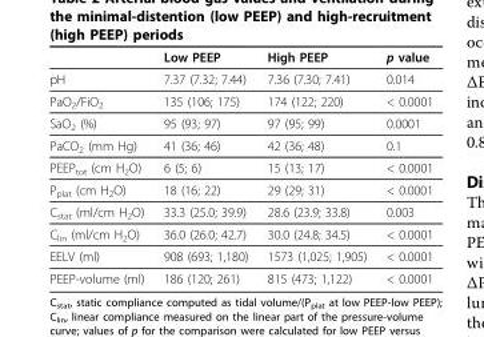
<table><thead><tr><td></td><td>Low PEEP</td><td>High PEEP</td><td>p value</td></tr></thead><tbody><tr><td>pH</td><td>7.37 (7.32; 7.44)</td><td>7.36 (7.30; 7.41)</td><td>0.014</td></tr><tr><td>PaO<sub>2</sub>/FiO<sub>2</sub></td><td>135 (106; 175)</td><td>174 (122; 220)</td><td>&lt; 0.0001</td></tr><tr><td>SaO<sub>2</sub> (%)</td><td>95 (93; 97)</td><td>97 (95; 99)</td><td>0.0001</td></tr><tr><td>PaCO<sub>2</sub> (mm Hg)</td><td>41 (36; 46)</td><td>42 (36; 48)</td><td>0.1</td></tr><tr><td>PEEP<sub>tot</sub> (cm H<sub>2</sub>O)</td><td>6 (5; 6)</td><td>15 (13; 17)</td><td>&lt; 0.0001</td></tr><tr><td>P<sub>plat</sub> (cm H<sub>2</sub>O)</td><td>18 (16; 22)</td><td>29 (29; 31)</td><td>&lt; 0.0001</td></tr><tr><td>C<sub>stat</sub> (ml/cm H<sub>2</sub>O)</td><td>33.3 (25.0; 39.9)</td><td>28.6 (23.9; 33.8)</td><td>0.003</td></tr><tr><td>C<sub>lin</sub> (ml/cm H<sub>2</sub>O)</td><td>36.0 (26.0; 42.7)</td><td>30.0 (24.8; 34.5)</td><td>&lt; 0.0001</td></tr><tr><td>EELV (ml)</td><td>908 (693; 1,180)</td><td>1573 (1,025; 1,905)</td><td>&lt; 0.0001</td></tr><tr><td>PEEP-volume (ml)</td><td>186 (120; 261)</td><td>815 (473; 1,122)</td><td>&lt; 0.0001</td></tr></tbody></table>